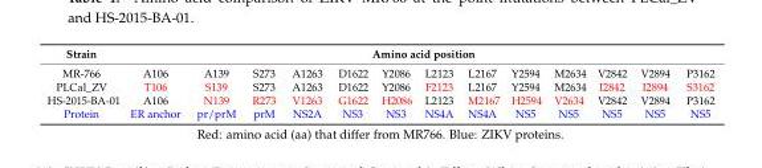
<table><thead><tr><td rowspan="2">Strain MR-766</td><td colspan="13">Amino acid position</td></tr><tr><td>A106</td><td>A139</td><td>S273</td><td>A1263</td><td>D1622</td><td>Y2086</td><td>L2123</td><td>L2167</td><td>Y2594</td><td>M2634</td><td>V2842</td><td>V2894</td><td>P3162</td></tr></thead><tbody><tr><td>PLCal_ZV</td><td>T106</td><td>S139</td><td>S273</td><td>A1263</td><td>D1622</td><td>Y2086</td><td>F2123</td><td>L2167</td><td>Y2594</td><td>M2634</td><td>I2842</td><td>I2894</td><td>S3162</td></tr><tr><td>HS-2015-BA-01</td><td>A106</td><td>N139</td><td>R273</td><td>V1263</td><td>G1622</td><td>H2086</td><td>L2123</td><td>M2167</td><td>H2594</td><td>V2634</td><td>V2842</td><td>V2894</td><td>P3162</td></tr><tr><td>Protein</td><td>ER anchor</td><td>pr/prM</td><td>prM</td><td>NS2A</td><td>NS3</td><td>NS3</td><td>NS4A</td><td>NS4A</td><td>NS5</td><td>NS5</td><td>NS5</td><td>NS5</td><td>NS5</td></tr></tbody></table>